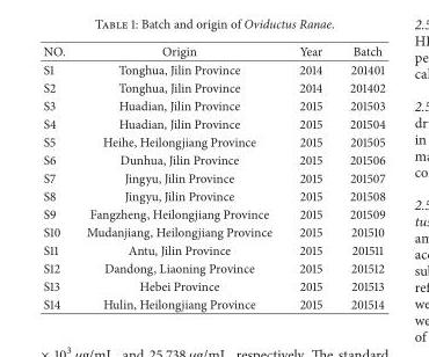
<table><thead><tr><td>NO.</td><td>Origin</td><td>Year</td><td>Batch</td></tr></thead><tbody><tr><td>S1</td><td>Tonghua, Jilin Province</td><td>2014</td><td>201401</td></tr><tr><td>S2</td><td>Tonghua, Jilin Province</td><td>2014</td><td>201402</td></tr><tr><td>S3</td><td>Huadian, Jilin Province</td><td>2015</td><td>201503</td></tr><tr><td>S4</td><td>Huadian, Jilin Province</td><td>2015</td><td>201504</td></tr><tr><td>S5</td><td>Heihe, Heilongjiang Province</td><td>2015</td><td>201505</td></tr><tr><td>S6</td><td>Dunhua, Jilin Province</td><td>2015</td><td>201506</td></tr><tr><td>S7</td><td>Jingyu, Jilin Province</td><td>2015</td><td>201507</td></tr><tr><td>S8</td><td>Jingyu, Jilin Province</td><td>2015</td><td>201508</td></tr><tr><td>S9</td><td>Fangzheng, Heilongjiang Province</td><td>2015</td><td>201509</td></tr><tr><td>S10</td><td>Mudanjiang, Heilongjiang Province</td><td>2015</td><td>201510</td></tr><tr><td>S11</td><td>Antu, Jilin Province</td><td>2015</td><td>201511</td></tr><tr><td>S12</td><td>Dandong, Liaoning Province</td><td>2015</td><td>201512</td></tr><tr><td>S13</td><td>Hebei Province</td><td>2015</td><td>201513</td></tr><tr><td>S14</td><td>Hulin, Heilongjiang Province</td><td>2015</td><td>201514</td></tr></tbody></table>